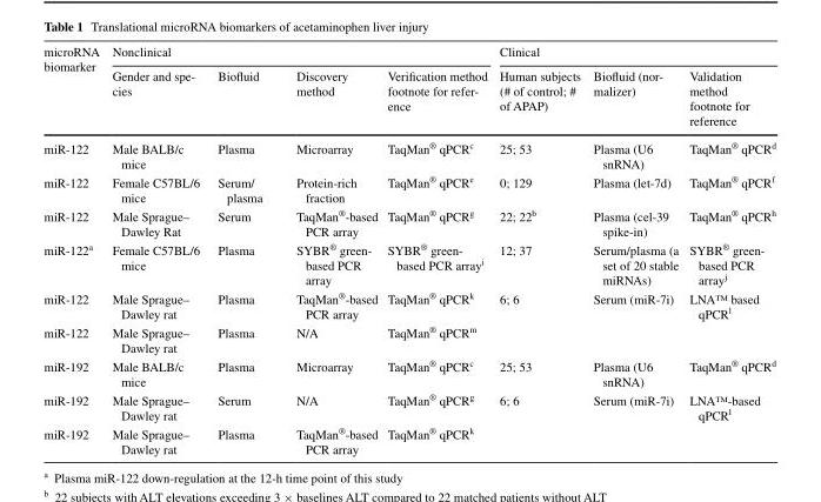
<table><thead><tr><td rowspan="2">microRNA biomarker</td><td colspan="4">Nonclinical</td><td colspan="3">Clinical</td></tr><tr><td>Gender and spe- cies</td><td>Biofluid</td><td>Discovery method</td><td>Verification method footnote for refer- ence</td><td>Human subjects (# of control; # of APAP)</td><td>Biofluid (nor- malizer)</td><td>Validation method footnote for reference</td></tr></thead><tbody><tr><td>miR-122</td><td>Male BALB/c mice</td><td>Plasma</td><td>Microarray</td><td>TaqMan<sup>®</sup> qPCR<sup>c</sup></td><td>25; 53</td><td>Plasma (U6 snRNA)</td><td>TaqMan<sup>®</sup> qPCR<sup>d</sup></td></tr><tr><td>miR-122</td><td>Female C57BL/6 mice</td><td>Serum/ plasma</td><td>Protein-rich fraction</td><td>TaqMan<sup>®</sup> qPCR<sup>e</sup></td><td>0; 129</td><td>Plasma (let-7d)</td><td>TaqMan<sup>®</sup> qPCR<sup>f</sup></td></tr><tr><td>miR-122</td><td>Male Sprague– Dawley Rat</td><td>Serum</td><td>TaqMan<sup>®</sup>-based PCR array</td><td>TaqMan<sup>®</sup> qPCR<sup>g</sup></td><td>22; 22<sup>b</sup></td><td>Plasma (cel-39 spike-in)</td><td>TaqMan<sup>®</sup> qPCR<sup>h</sup></td></tr><tr><td>miR-122<sup>a</sup></td><td>Female C57BL/6 mice</td><td>Plasma</td><td>SYBR<sup>®</sup> green- based PCR array</td><td>SYBR<sup>®</sup> green- based PCR array<sup>i</sup></td><td>12; 37</td><td>Serum/plasma (a set of 20 stable miRNAs)</td><td>SYBR<sup>®</sup> green- based PCR array<sup>j</sup></td></tr><tr><td>miR-122</td><td>Male Sprague– Dawley rat</td><td>Plasma</td><td>TaqMan<sup>®</sup>-based PCR array</td><td>TaqMan<sup>®</sup> qPCR<sup>k</sup></td><td>6; 6</td><td>Serum (miR-7i)</td><td>LNA™ based qPCR<sup>l</sup></td></tr><tr><td>miR-122</td><td>Male Sprague– Dawley rat</td><td>Plasma</td><td>N/A</td><td>TaqMan<sup>®</sup> qPCR<sup>m</sup></td><td></td><td></td><td></td></tr><tr><td>miR-192</td><td>Male BALB/c mice</td><td>Plasma</td><td>Microarray</td><td>TaqMan<sup>®</sup> qPCR<sup>c</sup></td><td>25; 53</td><td>Plasma (U6 snRNA)</td><td>TaqMan<sup>®</sup> qPCR<sup>d</sup></td></tr><tr><td>miR-192</td><td>Male Sprague– Dawley rat</td><td>Serum</td><td>N/A</td><td>TaqMan<sup>®</sup> qPCR<sup>g</sup></td><td>6; 6</td><td>Serum (miR-7i)</td><td>LNA™-based qPCR<sup>l</sup></td></tr><tr><td>miR-192</td><td>Male Sprague– Dawley rat</td><td>Plasma</td><td>TaqMan<sup>®</sup>-based PCR array</td><td>TaqMan<sup>®</sup> qPCR<sup>k</sup></td><td></td><td></td><td></td></tr></tbody></table>